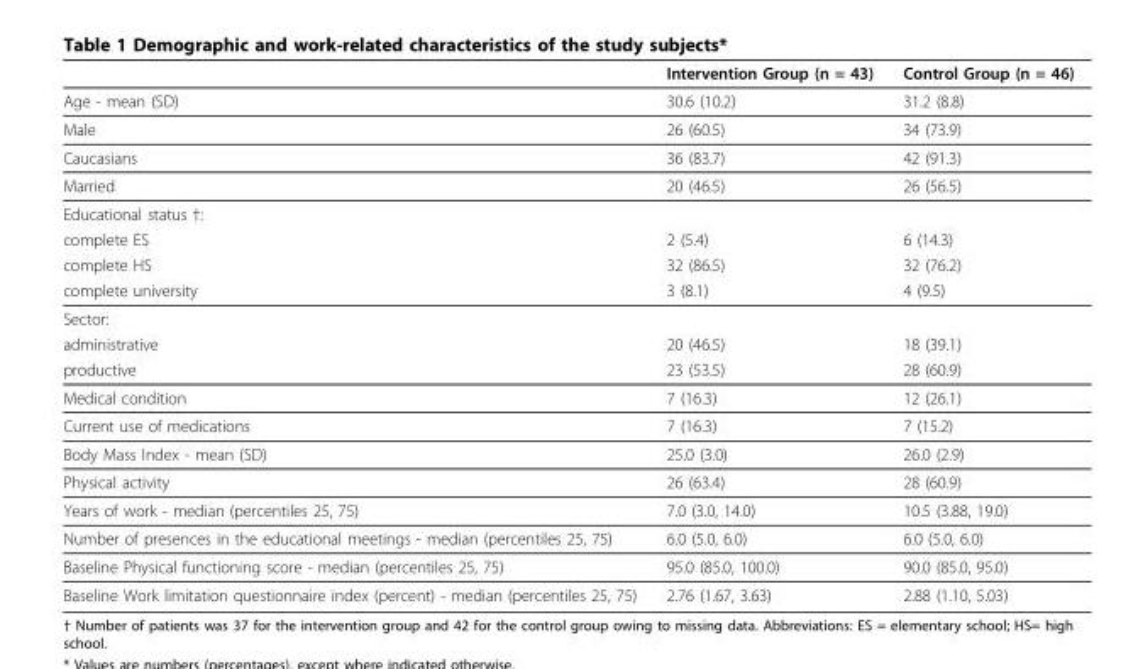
<table><thead><tr><td></td><td>Intervention Group (n = 43)</td><td>Control Group (n = 46)</td></tr></thead><tbody><tr><td>Age - mean (SD)</td><td>30.6 (10.2)</td><td>31.2 (8.8)</td></tr><tr><td>Male</td><td>26 (60.5)</td><td>34 (73.9)</td></tr><tr><td>Caucasians</td><td>36 (83.7)</td><td>42 (91.3)</td></tr><tr><td>Married</td><td>20 (46.5)</td><td>26 (56.5)</td></tr><tr><td colspan="3">Educational status †:</td></tr><tr><td>complete ES</td><td>2 (5.4)</td><td>6 (14.3)</td></tr><tr><td>complete HS</td><td>32 (86.5)</td><td>32 (76.2)</td></tr><tr><td>complete university</td><td>3 (8.1)</td><td>4 (9.5)</td></tr><tr><td colspan="3">Sector:</td></tr><tr><td>administrative</td><td>20 (46.5)</td><td>18 (39.1)</td></tr><tr><td>productive</td><td>23 (53.5)</td><td>28 (60.9)</td></tr><tr><td>Medical condition</td><td>7 (16.3)</td><td>12 (26.1)</td></tr><tr><td>Current use of medications</td><td>7 (16.3)</td><td>7 (15.2)</td></tr><tr><td>Body Mass Index - mean (SD)</td><td>25.0 (3.0)</td><td>26.0 (2.9)</td></tr><tr><td>Physical activity</td><td>26 (63.4)</td><td>28 (60.9)</td></tr><tr><td>Years of work - median (percentiles 25, 75)</td><td>7.0 (3.0, 14.0)</td><td>10.5 (3.88, 19.0)</td></tr><tr><td>Number of presences in the educational meetings - median (percentiles 25, 75)</td><td>6.0 (5.0, 6.0)</td><td>6.0 (5.0, 6.0)</td></tr><tr><td>Baseline Physical functioning score - median (percentiles 25, 75)</td><td>95.0 (85.0, 100.0)</td><td>90.0 (85.0, 95.0)</td></tr><tr><td>Baseline Work limitation questionnaire index (percent) - median (percentiles 25, 75)</td><td>2.76 (1.67, 3.63)</td><td>2.88 (1.10, 5.03)</td></tr></tbody></table>